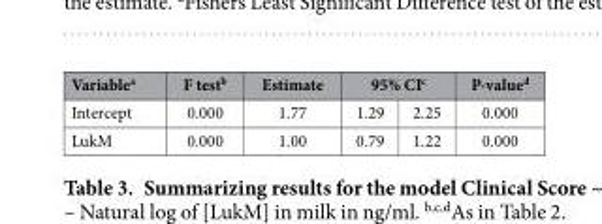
<table><thead><tr><td rowspan="2">Variable<sup>a</sup> Intercept</td><td rowspan="2">F test<sup>b</sup> 0.000</td><td rowspan="2">Estimate 1.77</td><td colspan="2">95% CI<sup>c</sup></td><td rowspan="2">P-value<sup>d</sup> 0.000</td></tr><tr><td>1.29</td><td>2.25</td></tr></thead><tbody><tr><td>LukM</td><td>0.000</td><td>1.00</td><td>0.79</td><td>1.22</td><td>0.000</td></tr></tbody></table>